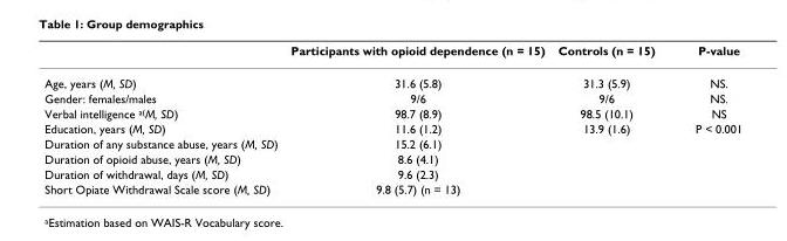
<table><thead><tr><td></td><td>Participants with opioid dependence (n = 15)</td><td>Controls (n = 15)</td><td>P-value</td></tr></thead><tbody><tr><td>Age, years (M, SD)</td><td>31.6 (5.8)</td><td>31.3 (5.9)</td><td>NS.</td></tr><tr><td>Gender: females/males</td><td>9/6</td><td>9/6</td><td>NS.</td></tr><tr><td>Verbal intelligence <sup>a(</sup>M, SD)</td><td>98.7 (8.9)</td><td>98.5 (10.1)</td><td>NS</td></tr><tr><td>Education, years (M, SD)</td><td>11.6 (1.2)</td><td>13.9 (1.6)</td><td>P &lt; 0.001</td></tr><tr><td>Duration of any substance abuse, years (M, SD)</td><td>15.2 (6.1)</td><td></td><td></td></tr><tr><td>Duration of opioid abuse, years (M, SD)</td><td>8.6 (4.1)</td><td></td><td></td></tr><tr><td>Duration of withdrawal, days (M, SD)</td><td>9.6 (2.3)</td><td></td><td></td></tr><tr><td>Short Opiate Withdrawal Scale score (M, SD)</td><td>9.8 (5.7) (n = 13)</td><td></td><td></td></tr></tbody></table>